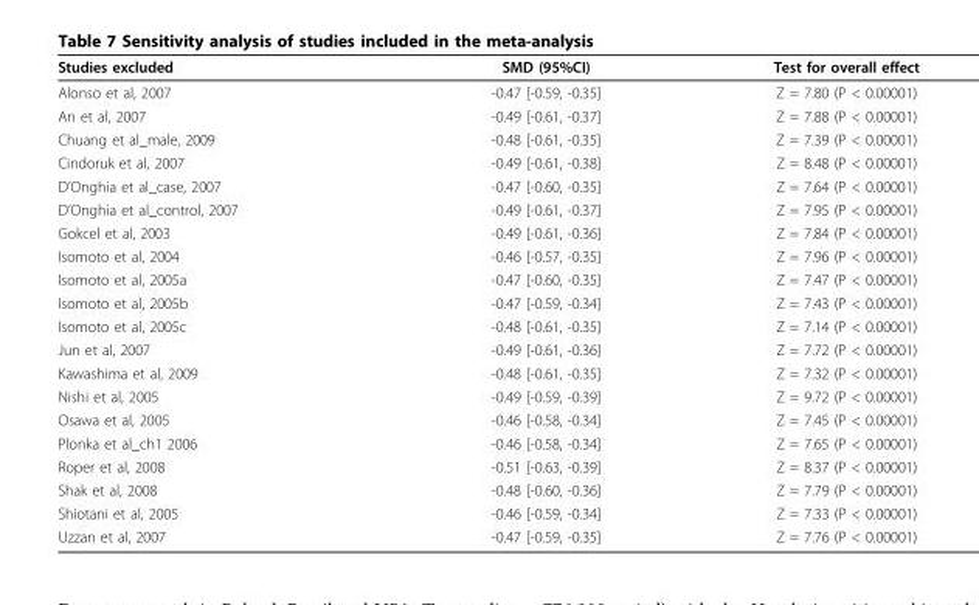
<table><thead><tr><td>Studies excluded</td><td>SMD (95%CI)</td><td>Test for overall effect</td></tr></thead><tbody><tr><td>Alonso et al, 2007</td><td>-0.47 [-0.59, -0.35]</td><td>Z = 7.80 (P &lt; 0.00001)</td></tr><tr><td>An et al, 2007</td><td>-0.49 [-0.61, -0.37]</td><td>Z = 7.88 (P &lt; 0.00001)</td></tr><tr><td>Chuang et al_male, 2009</td><td>-0.48 [-0.61, -0.35]</td><td>Z = 7.39 (P &lt; 0.00001)</td></tr><tr><td>Cindoruk et al, 2007</td><td>-0.49 [-0.61, -0.38]</td><td>Z = 8.48 (P &lt; 0.00001)</td></tr><tr><td>D’Onghia et al_case, 2007</td><td>-0.47 [-0.60, -0.35]</td><td>Z = 7.64 (P &lt; 0.00001)</td></tr><tr><td>D’Onghia et al_control, 2007</td><td>-0.49 [-0.61, -0.37]</td><td>Z = 7.95 (P &lt; 0.00001)</td></tr><tr><td>Gokcel et al, 2003</td><td>-0.49 [-0.61, -0.36]</td><td>Z = 7.84 (P &lt; 0.00001)</td></tr><tr><td>Isomoto et al, 2004</td><td>-0.46 [-0.57, -0.35]</td><td>Z = 7.96 (P &lt; 0.00001)</td></tr><tr><td>Isomoto et al, 2005a</td><td>-0.47 [-0.60, -0.35]</td><td>Z = 7.47 (P &lt; 0.00001)</td></tr><tr><td>Isomoto et al, 2005b</td><td>-0.47 [-0.59, -0.34]</td><td>Z = 7.43 (P &lt; 0.00001)</td></tr><tr><td>Isomoto et al, 2005c</td><td>-0.48 [-0.61, -0.35]</td><td>Z = 7.14 (P &lt; 0.00001)</td></tr><tr><td>Jun et al, 2007</td><td>-0.49 [-0.61, -0.36]</td><td>Z = 7.72 (P &lt; 0.00001)</td></tr><tr><td>Kawashima et al, 2009</td><td>-0.48 [-0.61, -0.35]</td><td>Z = 7.32 (P &lt; 0.00001)</td></tr><tr><td>Nishi et al, 2005</td><td>-0.49 [-0.59, -0.39]</td><td>Z = 9.72 (P &lt; 0.00001)</td></tr><tr><td>Osawa et al, 2005</td><td>-0.46 [-0.58, -0.34]</td><td>Z = 7.45 (P &lt; 0.00001)</td></tr><tr><td>Plonka et al_ch1 2006</td><td>-0.46 [-0.58, -0.34]</td><td>Z = 7.65 (P &lt; 0.00001)</td></tr><tr><td>Roper et al, 2008</td><td>-0.51 [-0.63, -0.39]</td><td>Z = 8.37 (P &lt; 0.00001)</td></tr><tr><td>Shak et al, 2008</td><td>-0.48 [-0.60, -0.36]</td><td>Z = 7.79 (P &lt; 0.00001)</td></tr><tr><td>Shiotani et al, 2005</td><td>-0.46 [-0.59, -0.34]</td><td>Z = 7.33 (P &lt; 0.00001)</td></tr><tr><td>Uzzan et al, 2007</td><td>-0.47 [-0.59, -0.35]</td><td>Z = 7.76 (P &lt; 0.00001)</td></tr></tbody></table>